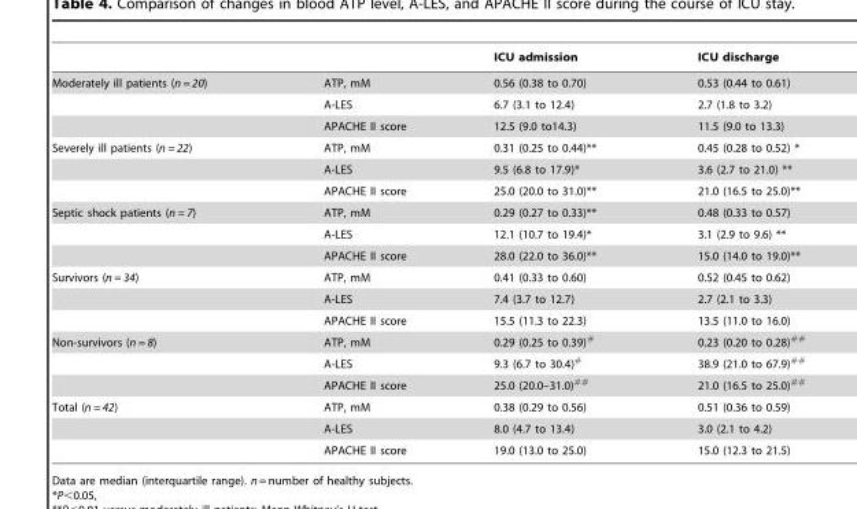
<table><thead><tr><td></td><td></td><td>ICU admission</td><td>ICU discharge</td></tr></thead><tbody><tr><td rowspan="3">Moderately ill patients (n = 20)</td><td>ATP, mM</td><td>0.56 (0.38 to 0.70)</td><td>0.53 (0.44 to 0.61)</td></tr><tr><td>A-LES</td><td>6.7 (3.1 to 12.4)</td><td>2.7 (1.8 to 3.2)</td></tr><tr><td>APACHE II score</td><td>12.5 (9.0 to14.3)</td><td>11.5 (9.0 to 13.3)</td></tr><tr><td rowspan="3">Severely ill patients (n = 22)</td><td>ATP, mM</td><td>0.31 (0.25 to 0.44)**</td><td>0.45 (0.28 to 0.52) *</td></tr><tr><td>A-LES</td><td>9.5 (6.8 to 17.9)*</td><td>3.6 (2.7 to 21.0) **</td></tr><tr><td>APACHE II score</td><td>25.0 (20.0 to 31.0)**</td><td>21.0 (16.5 to 25.0)**</td></tr><tr><td rowspan="3">Septic shock patients (n = 7)</td><td>ATP, mM</td><td>0.29 (0.27 to 0.33)**</td><td>0.48 (0.33 to 0.57)</td></tr><tr><td>A-LES</td><td>12.1 (10.7 to 19.4)*</td><td>3.1 (2.9 to 9.6) **</td></tr><tr><td>APACHE II score</td><td>28.0 (22.0 to 36.0)**</td><td>15.0 (14.0 to 19.0)**</td></tr><tr><td rowspan="3">Survivors (n = 34)</td><td>ATP, mM</td><td>0.41 (0.33 to 0.60)</td><td>0.52 (0.45 to 0.62)</td></tr><tr><td>A-LES</td><td>7.4 (3.7 to 12.7)</td><td>2.7 (2.1 to 3.3)</td></tr><tr><td>APACHE II score</td><td>15.5 (11.3 to 22.3)</td><td>13.5 (11.0 to 16.0)</td></tr><tr><td rowspan="3">Non-survivors (n = 8)</td><td>ATP, mM</td><td>0.29 (0.25 to 0.39)#</td><td>0.23 (0.20 to 0.28)##</td></tr><tr><td>A-LES</td><td>9.3 (6.7 to 30.4)#</td><td>38.9 (21.0 to 67.9)##</td></tr><tr><td>APACHE II score</td><td>25.0 (20.0–31.0)##</td><td>21.0 (16.5 to 25.0)##</td></tr><tr><td rowspan="3">Total (n = 42)</td><td>ATP, mM</td><td>0.38 (0.29 to 0.56)</td><td>0.51 (0.36 to 0.59)</td></tr><tr><td>A-LES</td><td>8.0 (4.7 to 13.4)</td><td>3.0 (2.1 to 4.2)</td></tr><tr><td>APACHE II score</td><td>19.0 (13.0 to 25.0)</td><td>15.0 (12.3 to 21.5)</td></tr></tbody></table>